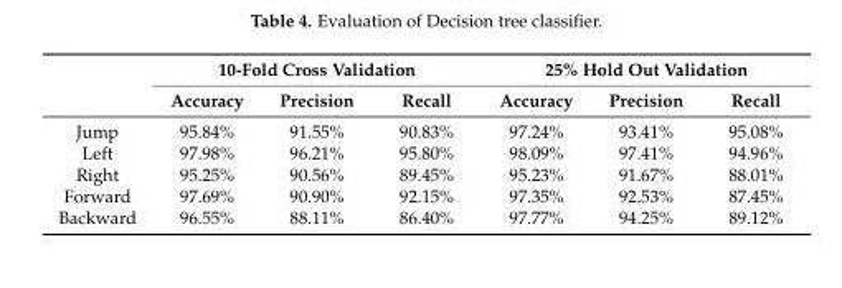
<table><thead><tr><td rowspan="2"></td><td colspan="3">10-Fold Cross Validation</td><td colspan="3">25% Hold Out Validation</td></tr><tr><td>Accuracy</td><td>Precision</td><td>Recall</td><td>Accuracy</td><td>Precision</td><td>Recall</td></tr></thead><tbody><tr><td>Jump</td><td>95.84%</td><td>91.55%</td><td>90.83%</td><td>97.24%</td><td>93.41%</td><td>95.08%</td></tr><tr><td>Left</td><td>97.98%</td><td>96.21%</td><td>95.80%</td><td>98.09%</td><td>97.41%</td><td>94.96%</td></tr><tr><td>Right</td><td>95.25%</td><td>90.56%</td><td>89.45%</td><td>95.23%</td><td>91.67%</td><td>88.01%</td></tr><tr><td>Forward</td><td>97.69%</td><td>90.90%</td><td>92.15%</td><td>97.35%</td><td>92.53%</td><td>87.45%</td></tr><tr><td>Backward</td><td>96.55%</td><td>88.11%</td><td>86.40%</td><td>97.77%</td><td>94.25%</td><td>89.12%</td></tr></tbody></table>